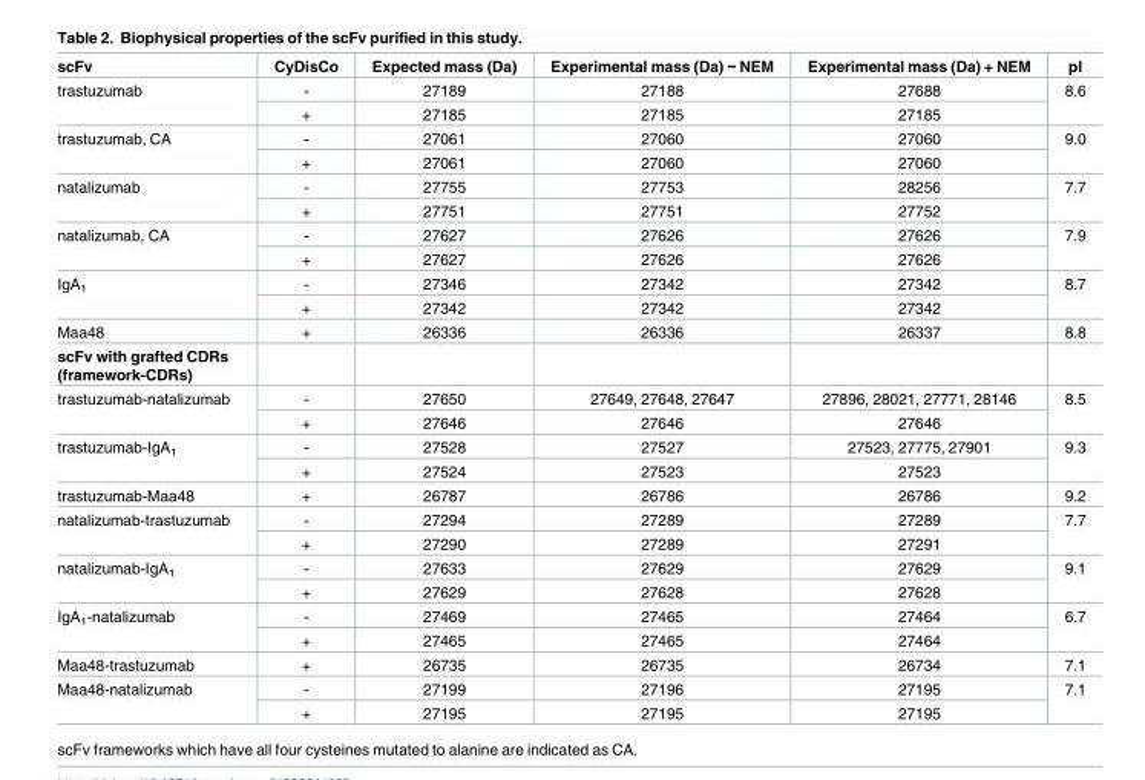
<table><thead><tr><td>scFv</td><td>CyDisCo</td><td>Expected mass (Da)</td><td>Experimental mass (Da) − NEM</td><td>Experimental mass (Da) + NEM</td><td>pI</td></tr></thead><tbody><tr><td rowspan="2">trastuzumab</td><td>-</td><td>27189</td><td>27188</td><td>27688</td><td rowspan="2">8.6</td></tr><tr><td>+</td><td>27185</td><td>27185</td><td>27185</td></tr><tr><td rowspan="2">trastuzumab, CA</td><td>-</td><td>27061</td><td>27060</td><td>27060</td><td rowspan="2">9.0</td></tr><tr><td>+</td><td>27061</td><td>27060</td><td>27060</td></tr><tr><td rowspan="2">natalizumab</td><td>-</td><td>27755</td><td>27753</td><td>28256</td><td rowspan="2">7.7</td></tr><tr><td>+</td><td>27751</td><td>27751</td><td>27752</td></tr><tr><td rowspan="2">natalizumab, CA</td><td>-</td><td>27627</td><td>27626</td><td>27626</td><td rowspan="2">7.9</td></tr><tr><td>+</td><td>27627</td><td>27626</td><td>27626</td></tr><tr><td rowspan="2">IgA<sub>1</sub></td><td>-</td><td>27346</td><td>27342</td><td>27342</td><td rowspan="2">8.7</td></tr><tr><td>+</td><td>27342</td><td>27342</td><td>27342</td></tr><tr><td>Maa48</td><td>+</td><td>26336</td><td>26336</td><td>26337</td><td>8.8</td></tr><tr><td colspan="6">scFv with grafted CDRs (framework-CDRs)</td></tr><tr><td rowspan="2">trastuzumab-natalizumab</td><td>-</td><td>27650</td><td>27649, 27648, 27647</td><td>27896, 28021, 27771, 28146</td><td rowspan="2">8.5</td></tr><tr><td>+</td><td>27646</td><td>27646</td><td>27646</td></tr><tr><td rowspan="2">trastuzumab-IgA<sub>1</sub></td><td>-</td><td>27528</td><td>27527</td><td>27523, 27775, 27901</td><td rowspan="2">9.3</td></tr><tr><td>+</td><td>27524</td><td>27523</td><td>27523</td></tr><tr><td>trastuzumab-Maa48</td><td>+</td><td>26787</td><td>26786</td><td>26786</td><td>9.2</td></tr><tr><td rowspan="2">natalizumab-trastuzumab</td><td>-</td><td>27294</td><td>27289</td><td>27289</td><td rowspan="2">7.7</td></tr><tr><td>+</td><td>27290</td><td>27289</td><td>27291</td></tr><tr><td rowspan="2">natalizumab-IgA<sub>1</sub></td><td>-</td><td>27633</td><td>27629</td><td>27629</td><td rowspan="2">9.1</td></tr><tr><td>+</td><td>27629</td><td>27628</td><td>27628</td></tr><tr><td rowspan="2">IgA<sub>1</sub>-natalizumab</td><td>-</td><td>27469</td><td>27465</td><td>27464</td><td rowspan="2">6.7</td></tr><tr><td>+</td><td>27465</td><td>27465</td><td>27464</td></tr><tr><td>Maa48-trastuzumab</td><td>+</td><td>26735</td><td>26735</td><td>26734</td><td>7.1</td></tr><tr><td rowspan="2">Maa48-natalizumab</td><td>-</td><td>27199</td><td>27196</td><td>27195</td><td rowspan="2">7.1</td></tr><tr><td>+</td><td>27195</td><td>27195</td><td>27195</td></tr></tbody></table>